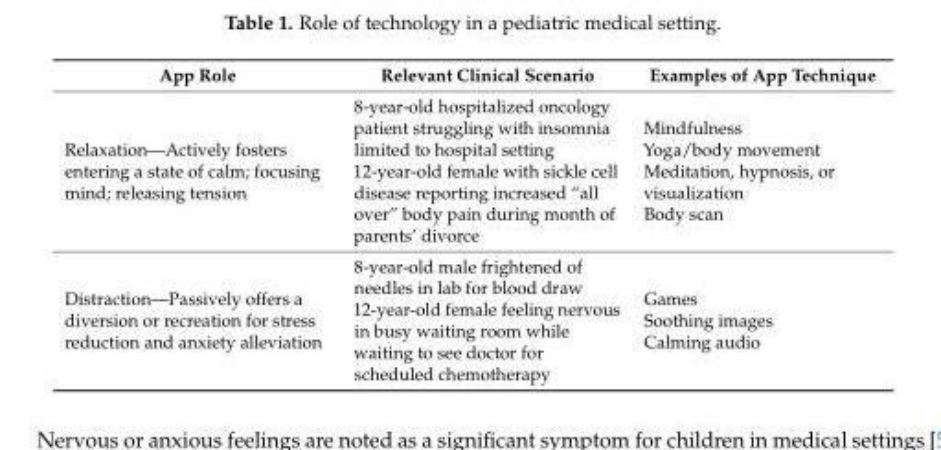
<table><thead><tr><td>App Role</td><td>Relevant Clinical Scenario</td><td>Examples of App Technique</td></tr></thead><tbody><tr><td>Relaxation—Actively fosters entering a state of calm; focusing mind; releasing tension</td><td>8-year-old hospitalized oncology patient struggling with insomnia limited to hospital setting 12-year-old female with sickle cell disease reporting increased “all over” body pain during month of parents’ divorce</td><td>Mindfulness Yoga/body movement Meditation, hypnosis, or visualization Body scan</td></tr><tr><td>Distraction—Passively offers a diversion or recreation for stress reduction and anxiety alleviation</td><td>8-year-old male frightened of needles in lab for blood draw 12-year-old female feeling nervous in busy waiting room while waiting to see doctor for scheduled chemotherapy</td><td>Games Soothing images Calming audio</td></tr></tbody></table>